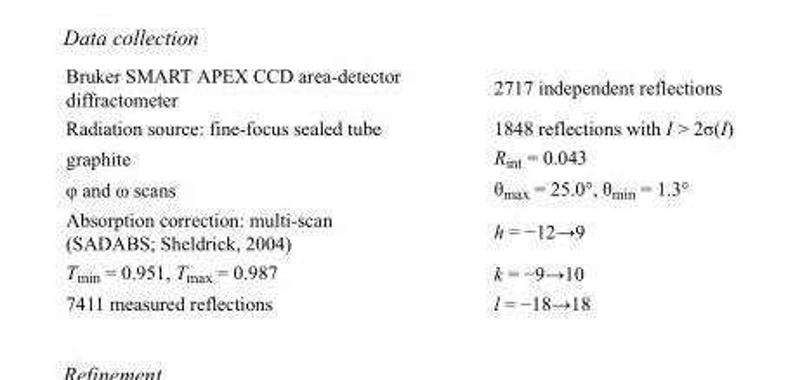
<table><tbody><tr><td>Bruker SMART APEX CCD area-detector diffractometer</td><td>2717 independent reflections</td></tr><tr><td>Radiation source: fine-focus sealed tube</td><td>1848 reflections with I &gt; 2σ(I)</td></tr><tr><td>graphite</td><td>R<sub>int</sub> = 0.043</td></tr><tr><td>φ and ω scans</td><td>θ<sub>max</sub> = 25.0°, θ<sub>min</sub> = 1.3°</td></tr><tr><td>Absorption correction: multi-scan (SADABS; Sheldrick, 2004)</td><td>h = −12→9</td></tr><tr><td>T<sub>min</sub> = 0.951, T<sub>max</sub> = 0.987</td><td>k = −9→10</td></tr><tr><td>7411 measured reflections</td><td>l = −18→18</td></tr></tbody></table>